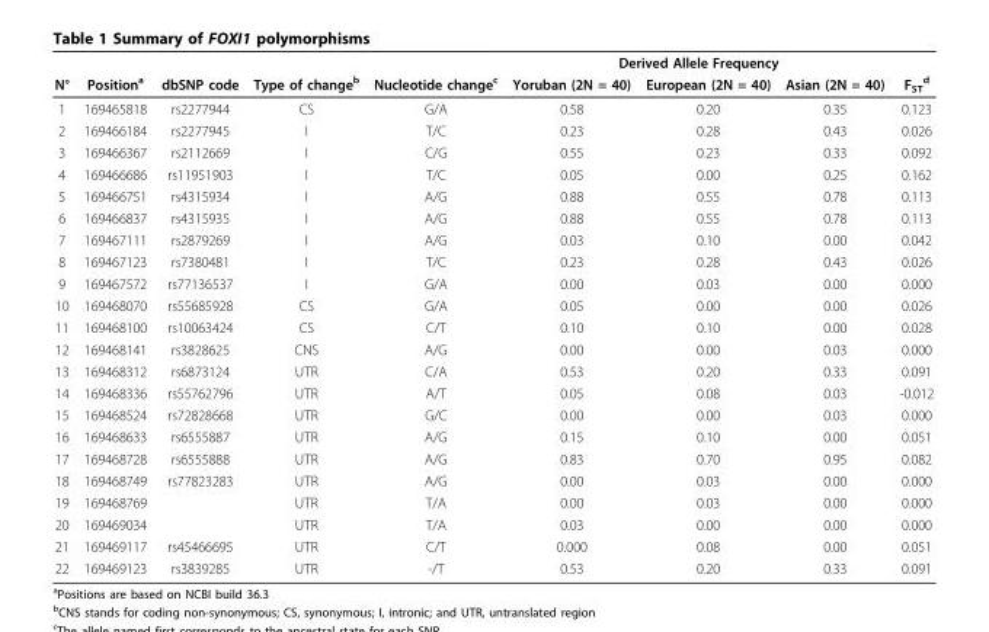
<table><thead><tr><td rowspan="2">N°</td><td rowspan="2">Position<sup>a</sup></td><td rowspan="2">dbSNP code</td><td rowspan="2">Type of change<sup>b</sup></td><td rowspan="2">Nucleotide change<sup>c</sup></td><td colspan="3">Derived Allele Frequency</td><td rowspan="2">F<sub>ST</sub> <sup>d</sup></td></tr><tr><td>Yoruban (2N = 40)</td><td>European (2N = 40)</td><td>Asian (2N = 40)</td></tr></thead><tbody><tr><td>1</td><td>169465818</td><td>rs2277944</td><td>CS</td><td>G/A</td><td>0.58</td><td>0.20</td><td>0.35</td><td>0.123</td></tr><tr><td>2</td><td>169466184</td><td>rs2277945</td><td>I</td><td>T/C</td><td>0.23</td><td>0.28</td><td>0.43</td><td>0.026</td></tr><tr><td>3</td><td>169466367</td><td>rs2112669</td><td>I</td><td>C/G</td><td>0.55</td><td>0.23</td><td>0.33</td><td>0.092</td></tr><tr><td>4</td><td>169466686</td><td>rs11951903</td><td>I</td><td>T/C</td><td>0.05</td><td>0.00</td><td>0.25</td><td>0.162</td></tr><tr><td>5</td><td>169466751</td><td>rs4315934</td><td>I</td><td>A/G</td><td>0.88</td><td>0.55</td><td>0.78</td><td>0.113</td></tr><tr><td>6</td><td>169466837</td><td>rs4315935</td><td>I</td><td>A/G</td><td>0.88</td><td>0.55</td><td>0.78</td><td>0.113</td></tr><tr><td>7</td><td>169467111</td><td>rs2879269</td><td>I</td><td>A/G</td><td>0.03</td><td>0.10</td><td>0.00</td><td>0.042</td></tr><tr><td>8</td><td>169467123</td><td>rs7380481</td><td>I</td><td>T/C</td><td>0.23</td><td>0.28</td><td>0.43</td><td>0.026</td></tr><tr><td>9</td><td>169467572</td><td>rs77136537</td><td>I</td><td>G/A</td><td>0.00</td><td>0.03</td><td>0.00</td><td>0.000</td></tr><tr><td>10</td><td>169468070</td><td>rs55685928</td><td>CS</td><td>G/A</td><td>0.05</td><td>0.00</td><td>0.00</td><td>0.026</td></tr><tr><td>11</td><td>169468100</td><td>rs10063424</td><td>CS</td><td>C/T</td><td>0.10</td><td>0.10</td><td>0.00</td><td>0.028</td></tr><tr><td>12</td><td>169468141</td><td>rs3828625</td><td>CNS</td><td>A/G</td><td>0.00</td><td>0.00</td><td>0.03</td><td>0.000</td></tr><tr><td>13</td><td>169468312</td><td>rs6873124</td><td>UTR</td><td>C/A</td><td>0.53</td><td>0.20</td><td>0.33</td><td>0.091</td></tr><tr><td>14</td><td>169468336</td><td>rs55762796</td><td>UTR</td><td>A/T</td><td>0.05</td><td>0.08</td><td>0.03</td><td>-0.012</td></tr><tr><td>15</td><td>169468524</td><td>rs72828668</td><td>UTR</td><td>G/C</td><td>0.00</td><td>0.00</td><td>0.03</td><td>0.000</td></tr><tr><td>16</td><td>169468633</td><td>rs6555887</td><td>UTR</td><td>A/G</td><td>0.15</td><td>0.10</td><td>0.00</td><td>0.051</td></tr><tr><td>17</td><td>169468728</td><td>rs6555888</td><td>UTR</td><td>A/G</td><td>0.83</td><td>0.70</td><td>0.95</td><td>0.082</td></tr><tr><td>18</td><td>169468749</td><td>rs77823283</td><td>UTR</td><td>A/G</td><td>0.00</td><td>0.03</td><td>0.00</td><td>0.000</td></tr><tr><td>19</td><td>169468769</td><td></td><td>UTR</td><td>T/A</td><td>0.00</td><td>0.03</td><td>0.00</td><td>0.000</td></tr><tr><td>20</td><td>169469034</td><td></td><td>UTR</td><td>T/A</td><td>0.03</td><td>0.00</td><td>0.00</td><td>0.000</td></tr><tr><td>21</td><td>169469117</td><td>rs45466695</td><td>UTR</td><td>C/T</td><td>0.000</td><td>0.08</td><td>0.00</td><td>0.051</td></tr><tr><td>22</td><td>169469123</td><td>rs3839285</td><td>UTR</td><td>-/T</td><td>0.53</td><td>0.20</td><td>0.33</td><td>0.091</td></tr></tbody></table>